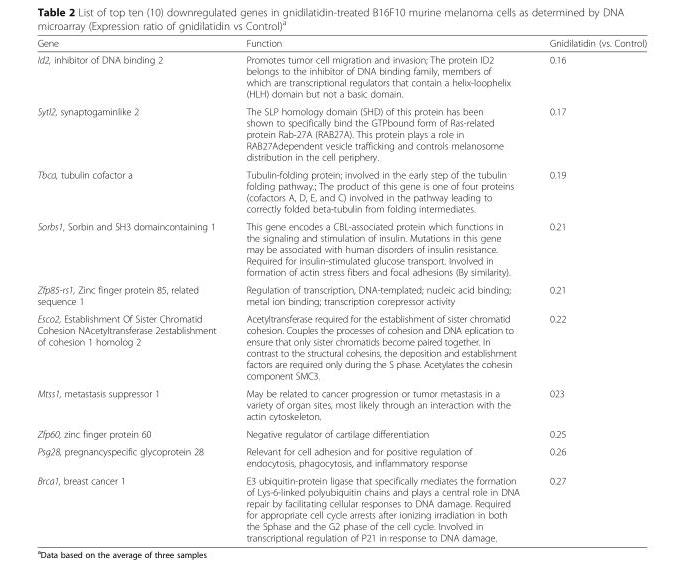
<table><thead><tr><td>Gene</td><td>Function</td><td>Gnidilatidin (vs. Control)</td></tr></thead><tbody><tr><td>Id2, inhibitor of DNA binding 2</td><td>Promotes tumor cell migration and invasion; The protein ID2 belongs to the inhibitor of DNA binding family, members of which are transcriptional regulators that contain a helix-loophelix (HLH) domain but not a basic domain.</td><td>0.16</td></tr><tr><td>Sytl2, synaptogaminlike 2</td><td>The SLP homology domain (SHD) of this protein has been shown to specifically bind the GTPbound form of Ras-related protein Rab-27A (RAB27A). This protein plays a role in RAB27Adependent vesicle trafficking and controls melanosome distribution in the cell periphery.</td><td>0.17</td></tr><tr><td>Tbca, tubulin cofactor a</td><td>Tubulin-folding protein; involved in the early step of the tubulin folding pathway.; The product of this gene is one of four proteins (cofactors A, D, E, and C) involved in the pathway leading to correctly folded beta-tubulin from folding intermediates.</td><td>0.19</td></tr><tr><td>Sorbs1, Sorbin and SH3 domaincontaining 1</td><td>This gene encodes a CBL-associated protein which functions in the signaling and stimulation of insulin. Mutations in this gene may be associated with human disorders of insulin resistance. Required for insulin-stimulated glucose transport. Involved in formation of actin stress fibers and focal adhesions (By similarity).</td><td>0.21</td></tr><tr><td>Zfp85-rs1, Zinc finger protein 85, related sequence 1</td><td>Regulation of transcription, DNA-templated; nucleic acid binding; metal ion binding; transcription corepressor activity</td><td>0.21</td></tr><tr><td>Esco2, Establishment Of Sister Chromatid Cohesion NAcetyltransferase 2establishment of cohesion 1 homolog 2</td><td>Acetyltransferase required for the establishment of sister chromatid cohesion. Couples the processes of cohesion and DNA eplication to ensure that only sister chromatids become paired together. In contrast to the structural cohesins, the deposition and establishment factors are required only during the S phase. Acetylates the cohesin component SMC3.</td><td>0.22</td></tr><tr><td>Mtss1, metastasis suppressor 1</td><td>May be related to cancer progression or tumor metastasis in a variety of organ sites, most likely through an interaction with the actin cytoskeleton.</td><td>023</td></tr><tr><td>Zfp60, zinc finger protein 60</td><td>Negative regulator of cartilage differentiation</td><td>0.25</td></tr><tr><td>Psg28, pregnancyspecific glycoprotein 28</td><td>Relevant for cell adhesion and for positive regulation of endocytosis, phagocytosis, and inflammatory response</td><td>0.26</td></tr><tr><td>Brca1, breast cancer 1</td><td>E3 ubiquitin-protein ligase that specifically mediates the formation of Lys-6-linked polyubiquitin chains and plays a central role in DNA repair by facilitating cellular responses to DNA damage. Required for appropriate cell cycle arrests after ionizing irradiation in both the Sphase and the G2 phase of the cell cycle. Involved in transcriptional regulation of P21 in response to DNA damage.</td><td>0.27</td></tr></tbody></table>